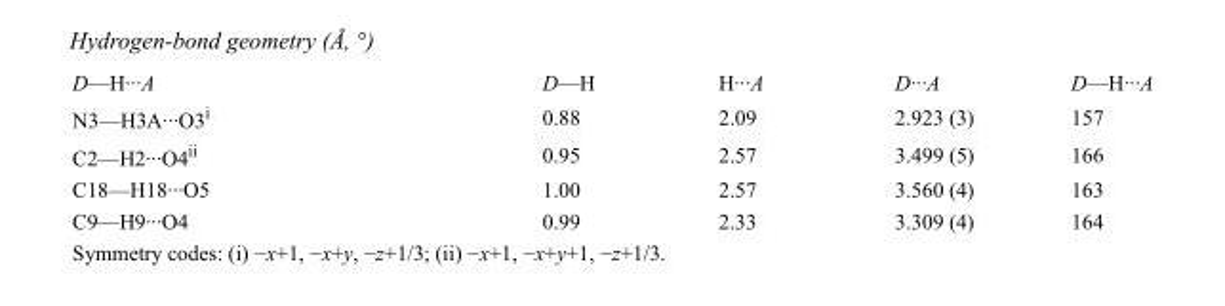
<table><tbody><tr><td>D—H···A</td><td>D—H</td><td>H···A</td><td>D···A</td><td>D—H···A</td></tr><tr><td>N3—H3A···O3<sup>i</sup></td><td>0.88</td><td>2.09</td><td>2.923 (3)</td><td>157</td></tr><tr><td>C2—H2···O4<sup>ii</sup></td><td>0.95</td><td>2.57</td><td>3.499 (5)</td><td>166</td></tr><tr><td>C18—H18···O5</td><td>1.00</td><td>2.57</td><td>3.560 (4)</td><td>163</td></tr><tr><td>C9—H9···O4</td><td>0.99</td><td>2.33</td><td>3.309 (4)</td><td>164</td></tr></tbody></table>